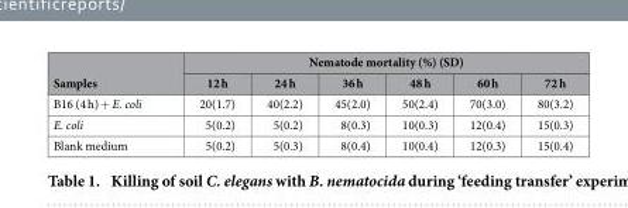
<table><thead><tr><td rowspan="2">Samples</td><td colspan="6">Nematode mortality (%) (SD)</td></tr><tr><td>12 h</td><td>24 h</td><td>36 h</td><td>48 h</td><td>60 h</td><td>72 h</td></tr></thead><tbody><tr><td>B16 (4 h) + E. coli</td><td>20(1.7)</td><td>40(2.2)</td><td>45(2.0)</td><td>50(2.4)</td><td>70(3.0)</td><td>80(3.2)</td></tr><tr><td>E. coli</td><td>5(0.2)</td><td>5(0.2)</td><td>8(0.3)</td><td>10(0.3)</td><td>12(0.4)</td><td>15(0.3)</td></tr><tr><td>Blank medium</td><td>5(0.2)</td><td>5(0.3)</td><td>8(0.4)</td><td>10(0.4)</td><td>12(0.3)</td><td>15(0.4)</td></tr></tbody></table>